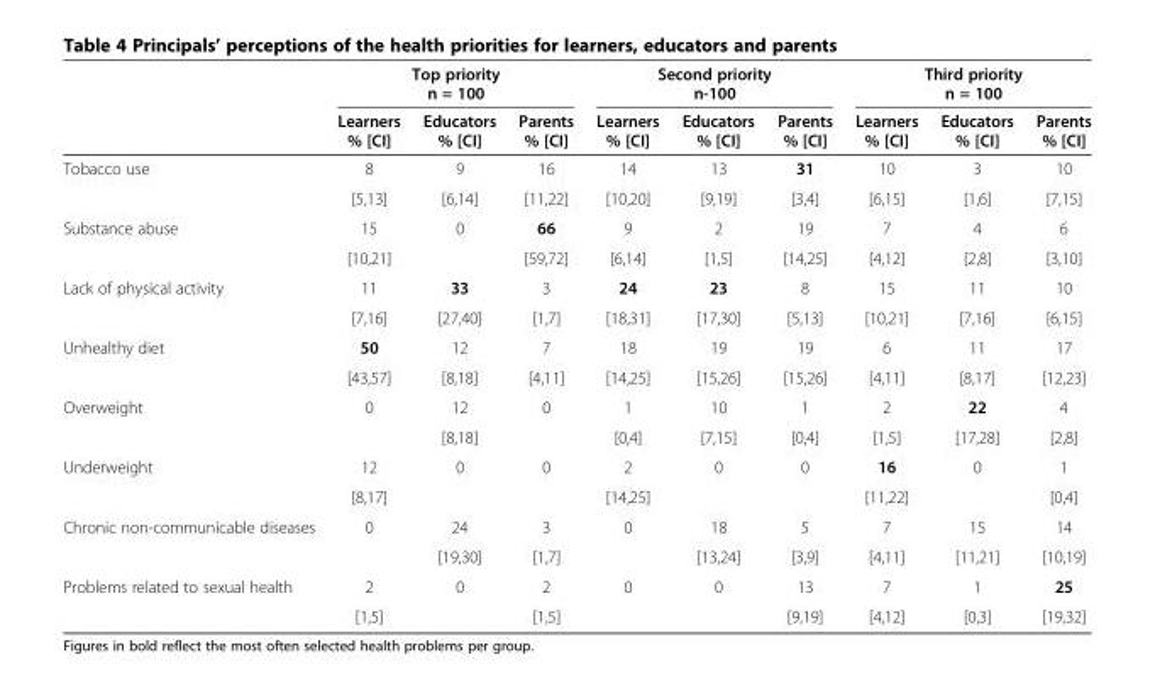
<table><thead><tr><td rowspan="2"></td><td colspan="3">Top priority n = 100</td><td colspan="3">Second priority n-100</td><td colspan="3">Third priority n = 100</td></tr><tr><td>Learners % [CI]</td><td>Educators % [CI]</td><td>Parents % [CI]</td><td>Learners % [CI]</td><td>Educators % [CI]</td><td>Parents % [CI]</td><td>Learners % [CI]</td><td>Educators % [CI]</td><td>Parents % [CI]</td></tr></thead><tbody><tr><td rowspan="2">Tobacco use</td><td>8</td><td>9</td><td>16</td><td>14</td><td>13</td><td>31</td><td>10</td><td>3</td><td>10</td></tr><tr><td>[5,13]</td><td>[6,14]</td><td>[11,22]</td><td>[10,20]</td><td>[9,19]</td><td>[3,4]</td><td>[6,15]</td><td>[1,6]</td><td>[7,15]</td></tr><tr><td rowspan="2">Substance abuse</td><td>15</td><td>0</td><td>66</td><td>9</td><td>2</td><td>19</td><td>7</td><td>4</td><td>6</td></tr><tr><td>[10,21]</td><td></td><td>[59,72]</td><td>[6,14]</td><td>[1,5]</td><td>[14,25]</td><td>[4,12]</td><td>[2,8]</td><td>[3,10]</td></tr><tr><td rowspan="2">Lack of physical activity</td><td>11</td><td>33</td><td>3</td><td>24</td><td>23</td><td>8</td><td>15</td><td>11</td><td>10</td></tr><tr><td>[7,16]</td><td>[27,40]</td><td>[1,7]</td><td>[18,31]</td><td>[17,30]</td><td>[5,13]</td><td>[10,21]</td><td>[7,16]</td><td>[6,15]</td></tr><tr><td rowspan="2">Unhealthy diet</td><td>50</td><td>12</td><td>7</td><td>18</td><td>19</td><td>19</td><td>6</td><td>11</td><td>17</td></tr><tr><td>[43,57]</td><td>[8,18]</td><td>[4,11]</td><td>[14,25]</td><td>[15,26]</td><td>[15,26]</td><td>[4,11]</td><td>[8,17]</td><td>[12,23]</td></tr><tr><td rowspan="2">Overweight</td><td>0</td><td>12</td><td>0</td><td>1</td><td>10</td><td>1</td><td>2</td><td>22</td><td>4</td></tr><tr><td></td><td>[8,18]</td><td></td><td>[0,4]</td><td>[7,15]</td><td>[0,4]</td><td>[1,5]</td><td>[17,28]</td><td>[2,8]</td></tr><tr><td rowspan="2">Underweight</td><td>12</td><td>0</td><td>0</td><td>2</td><td>0</td><td>0</td><td>16</td><td>0</td><td>1</td></tr><tr><td>[8,17]</td><td></td><td></td><td>[14,25]</td><td></td><td></td><td>[11,22]</td><td></td><td>[0,4]</td></tr><tr><td rowspan="2">Chronic non-communicable diseases</td><td>0</td><td>24</td><td>3</td><td>0</td><td>18</td><td>5</td><td>7</td><td>15</td><td>14</td></tr><tr><td></td><td>[19,30]</td><td>[1,7]</td><td></td><td>[13,24]</td><td>[3,9]</td><td>[4,11]</td><td>[11,21]</td><td>[10,19]</td></tr><tr><td rowspan="2">Problems related to sexual health</td><td>2</td><td>0</td><td>2</td><td>0</td><td>0</td><td>13</td><td>7</td><td>1</td><td>25</td></tr><tr><td>[1,5]</td><td></td><td>[1,5]</td><td></td><td></td><td>[9,19]</td><td>[4,12]</td><td>[0,3]</td><td>[19,32]</td></tr></tbody></table>